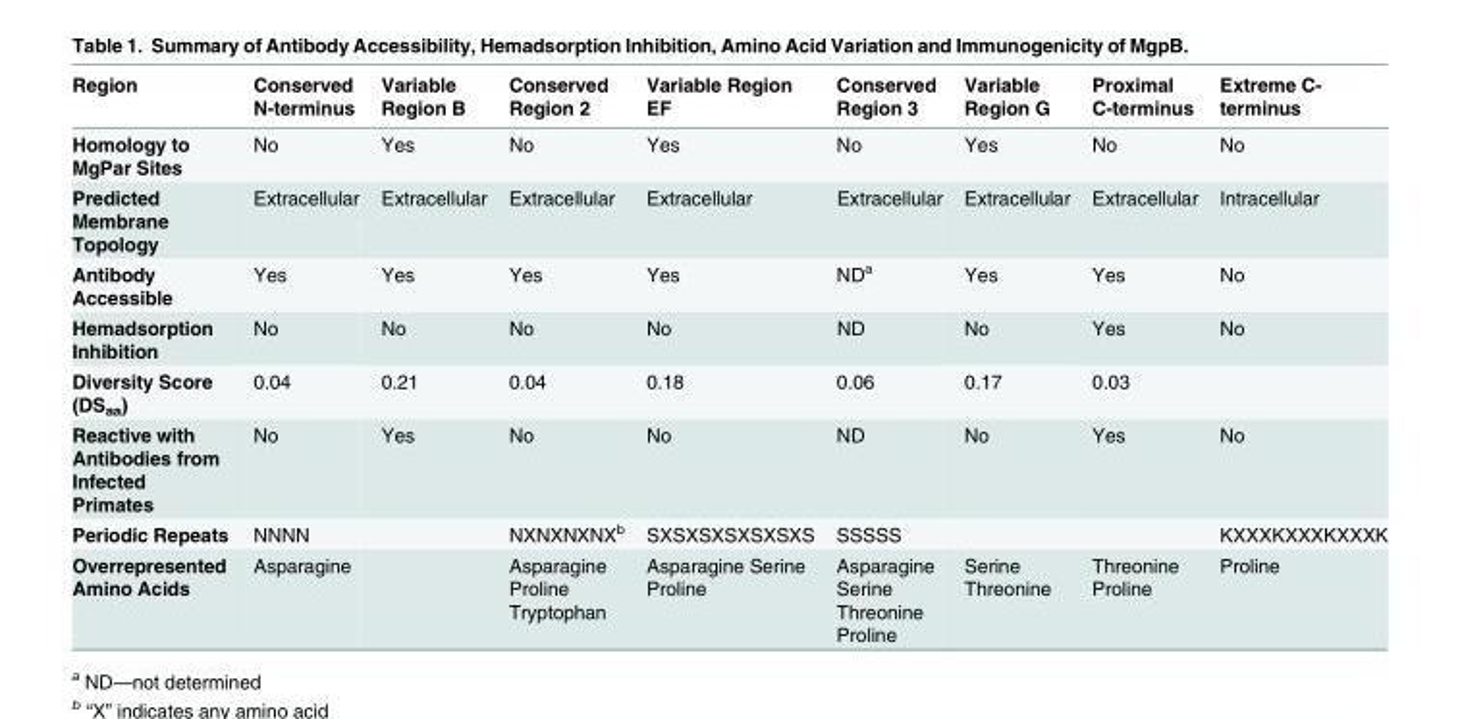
<table><thead><tr><td>Region</td><td>Conserved N-terminus</td><td>Variable Region B</td><td>Conserved Region 2</td><td>Variable Region EF</td><td>Conserved Region 3</td><td>Variable Region G</td><td>Proximal C-terminus</td><td>Extreme C- terminus</td></tr></thead><tbody><tr><td>Homology to MgPar Sites</td><td>No</td><td>Yes</td><td>No</td><td>Yes</td><td>No</td><td>Yes</td><td>No</td><td>No</td></tr><tr><td>Predicted Membrane Topology</td><td>Extracellular</td><td>Extracellular</td><td>Extracellular</td><td>Extracellular</td><td>Extracellular</td><td>Extracellular</td><td>Extracellular</td><td>Intracellular</td></tr><tr><td>Antibody Accessible</td><td>Yes</td><td>Yes</td><td>Yes</td><td>Yes</td><td>ND<sup>a</sup></td><td>Yes</td><td>Yes</td><td>No</td></tr><tr><td>Hemadsorption Inhibition</td><td>No</td><td>No</td><td>No</td><td>No</td><td>ND</td><td>No</td><td>Yes</td><td>No</td></tr><tr><td>Diversity Score (DS<sub>aa</sub>)</td><td>0.04</td><td>0.21</td><td>0.04</td><td>0.18</td><td>0.06</td><td>0.17</td><td colspan="2">0.03</td></tr><tr><td>Reactive with Antibodies from Infected Primates</td><td>No</td><td>Yes</td><td>No</td><td>No</td><td>ND</td><td>No</td><td>Yes</td><td>No</td></tr><tr><td>Periodic Repeats</td><td>NNNN</td><td></td><td>NXNXNXNX<sup>b</sup></td><td>SXSXSXSXSXSXS</td><td>SSSSS</td><td></td><td></td><td>KXXXKXXXKXXXK</td></tr><tr><td>Overrepresented Amino Acids</td><td>Asparagine</td><td></td><td>Asparagine Proline Tryptophan</td><td>Asparagine Serine Proline</td><td>Asparagine Serine Threonine Proline</td><td>Serine Threonine</td><td>Threonine Proline</td><td>Proline</td></tr></tbody></table>